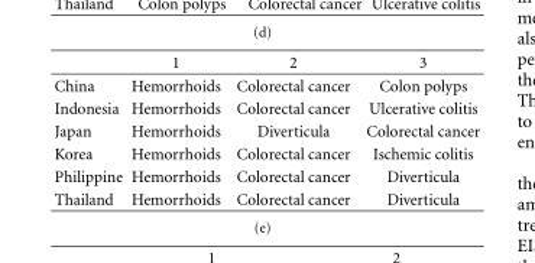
<table><thead><tr><td></td><td>1</td><td>2</td><td>3</td></tr></thead><tbody><tr><td>China</td><td>Hemorrhoids</td><td>Colorectal cancer</td><td>Colon polyps</td></tr><tr><td>Indonesia</td><td>Hemorrhoids</td><td>Colorectal cancer</td><td>Ulcerative colitis</td></tr><tr><td>Japan</td><td>Hemorrhoids</td><td>Diverticula</td><td>Colorectal cancer</td></tr><tr><td>Korea</td><td>Hemorrhoids</td><td>Colorectal cancer</td><td>Ischemic colitis</td></tr><tr><td>Philippine</td><td>Hemorrhoids</td><td>Colorectal cancer</td><td>Diverticula</td></tr><tr><td>Thailand</td><td>Hemorrhoids</td><td>Colorectal cancer</td><td>Diverticula</td></tr></tbody></table>